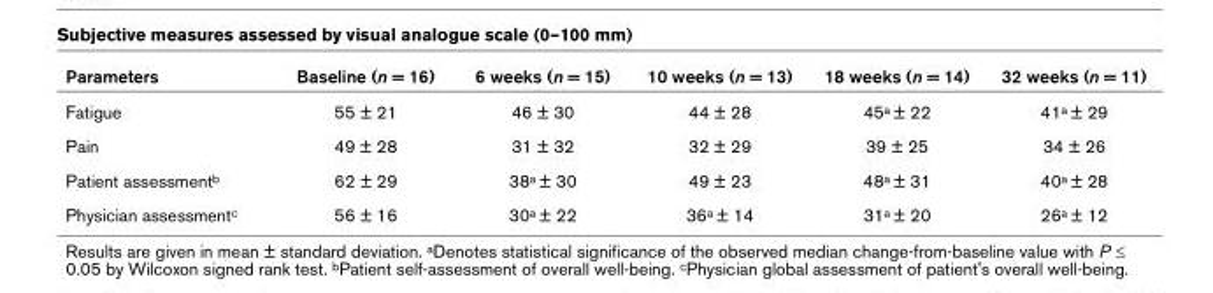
<table><thead><tr><td>Parameters</td><td>Baseline (n = 16)</td><td>6 weeks (n = 15)</td><td>10 weeks (n = 13)</td><td>18 weeks (n = 14)</td><td>32 weeks (n = 11)</td></tr></thead><tbody><tr><td>Fatigue</td><td>55 ± 21</td><td>46 ± 30</td><td>44 ± 28</td><td>45a ± 22</td><td>41a ± 29</td></tr><tr><td>Pain</td><td>49 ± 28</td><td>31 ± 32</td><td>32 ± 29</td><td>39 ± 25</td><td>34 ± 26</td></tr><tr><td>Patient assessmentb</td><td>62 ± 29</td><td>38a ± 30</td><td>49 ± 23</td><td>48a ± 31</td><td>40a ± 28</td></tr><tr><td>Physician assessmentc</td><td>56 ± 16</td><td>30a ± 22</td><td>36a ± 14</td><td>31a ± 20</td><td>26a ± 12</td></tr></tbody></table>